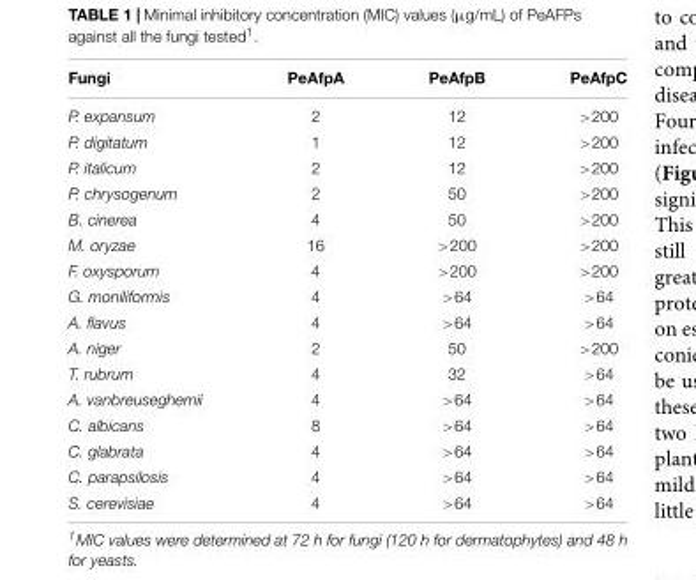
<table><thead><tr><td>Fungi</td><td>PeAfpA</td><td>PeAfpB</td><td>PeAfpC</td></tr></thead><tbody><tr><td>P. expansum</td><td>2</td><td>12</td><td>&gt;200</td></tr><tr><td>P. digitatum</td><td>1</td><td>12</td><td>&gt;200</td></tr><tr><td>P. italicum</td><td>2</td><td>12</td><td>&gt;200</td></tr><tr><td>P. chrysogenum</td><td>2</td><td>50</td><td>&gt;200</td></tr><tr><td>B. cinerea</td><td>4</td><td>50</td><td>&gt;200</td></tr><tr><td>M. oryzae</td><td>16</td><td>&gt;200</td><td>&gt;200</td></tr><tr><td>F. oxysporum</td><td>4</td><td>&gt;200</td><td>&gt;200</td></tr><tr><td>G. moniliformis</td><td>4</td><td>&gt;64</td><td>&gt;64</td></tr><tr><td>A. flavus</td><td>4</td><td>&gt;64</td><td>&gt;64</td></tr><tr><td>A. niger</td><td>2</td><td>50</td><td>&gt;200</td></tr><tr><td>T. rubrum</td><td>4</td><td>32</td><td>&gt;64</td></tr><tr><td>A. vanbreuseghemii</td><td>4</td><td>&gt;64</td><td>&gt;64</td></tr><tr><td>C. albicans</td><td>8</td><td>&gt;64</td><td>&gt;64</td></tr><tr><td>C. glabrata</td><td>4</td><td>&gt;64</td><td>&gt;64</td></tr><tr><td>C. parapsilosis</td><td>4</td><td>&gt;64</td><td>&gt;64</td></tr><tr><td>S. cerevisiae</td><td>4</td><td>&gt;64</td><td>&gt;64</td></tr></tbody></table>